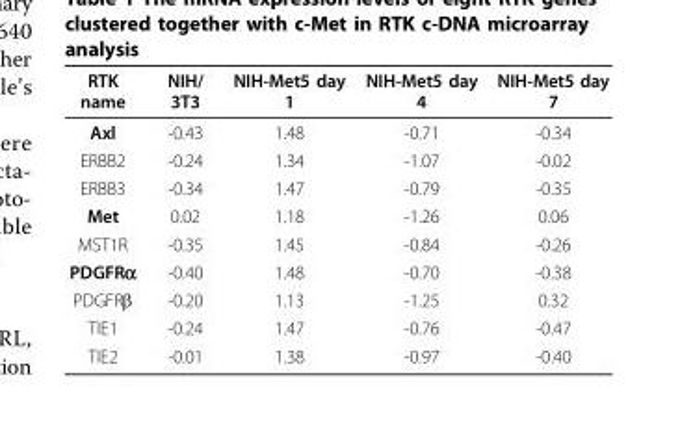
<table><thead><tr><td>RTK name</td><td>NIH/ 3T3</td><td>NIH-Met5 day 1</td><td>NIH-Met5 day 4</td><td>NIH-Met5 day 7</td></tr></thead><tbody><tr><td>Axl</td><td>-0.43</td><td>1.48</td><td>-0.71</td><td>-0.34</td></tr><tr><td>ERBB2</td><td>-0.24</td><td>1.34</td><td>-1.07</td><td>-0.02</td></tr><tr><td>ERBB3</td><td>-0.34</td><td>1.47</td><td>-0.79</td><td>-0.35</td></tr><tr><td>Met</td><td>0.02</td><td>1.18</td><td>-1.26</td><td>0.06</td></tr><tr><td>MST1R</td><td>-0.35</td><td>1.45</td><td>-0.84</td><td>-0.26</td></tr><tr><td>PDGFRα</td><td>-0.40</td><td>1.48</td><td>-0.70</td><td>-0.38</td></tr><tr><td>PDGFRβ</td><td>-0.20</td><td>1.13</td><td>-1.25</td><td>0.32</td></tr><tr><td>TIE1</td><td>-0.24</td><td>1.47</td><td>-0.76</td><td>-0.47</td></tr><tr><td>TIE2</td><td>-0.01</td><td>1.38</td><td>-0.97</td><td>-0.40</td></tr></tbody></table>